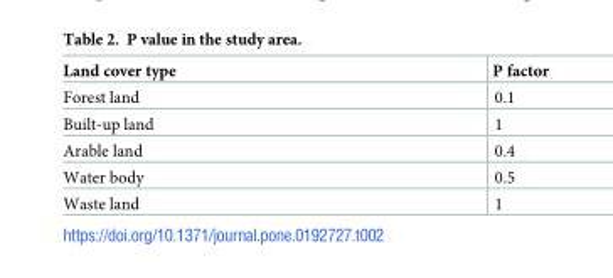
<table><thead><tr><td>Land cover type</td><td>P factor</td></tr></thead><tbody><tr><td>Forest land</td><td>0.1</td></tr><tr><td>Built-up land</td><td>1</td></tr><tr><td>Arable land</td><td>0.4</td></tr><tr><td>Water body</td><td>0.5</td></tr><tr><td>Waste land</td><td>1</td></tr></tbody></table>